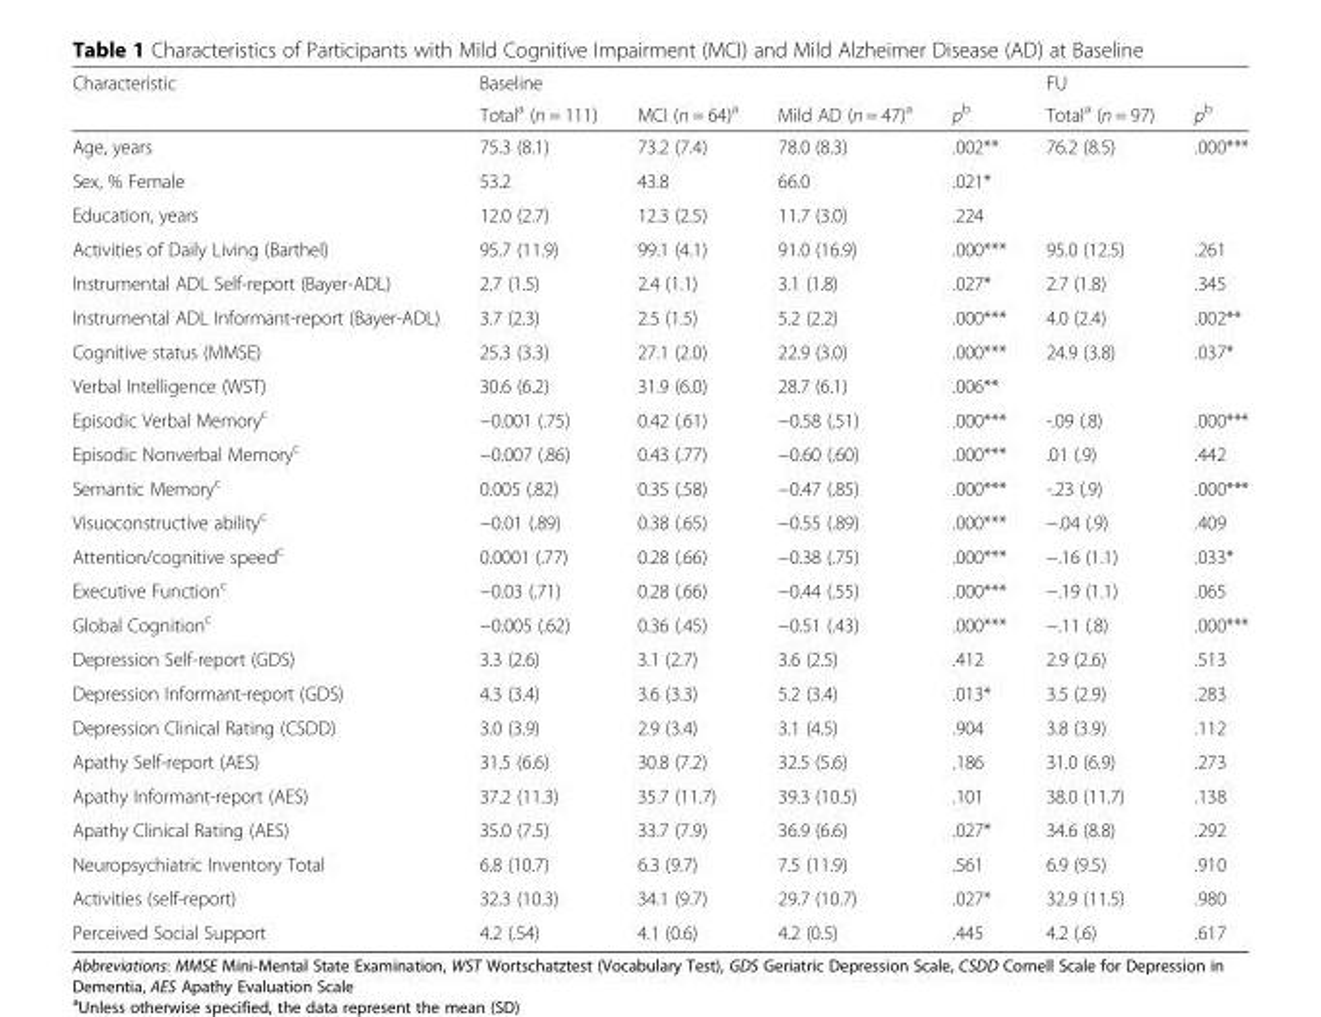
<table><thead><tr><td rowspan="2">Characteristic</td><td rowspan="2">Baseline Total<sup>a</sup> (n = 111)</td><td rowspan="2">MCI (n = 64)<sup>a</sup></td><td rowspan="2">Mild AD (n = 47)<sup>a</sup></td><td rowspan="2">p<sup>b</sup></td><td rowspan="2">FU Total<sup>a</sup> (n = 97)</td><td rowspan="2">p<sup>b</sup></td></tr><tr></tr></thead><tbody><tr><td>Age, years</td><td>75.3 (8.1)</td><td>73.2 (7.4)</td><td>78.0 (8.3)</td><td>.002**</td><td>76.2 (8.5)</td><td>.000***</td></tr><tr><td>Sex, % Female</td><td>53.2</td><td>43.8</td><td>66.0</td><td>.021*</td><td></td><td></td></tr><tr><td>Education, years</td><td>12.0 (2.7)</td><td>12.3 (2.5)</td><td>11.7 (3.0)</td><td>.224</td><td></td><td></td></tr><tr><td>Activities of Daily Living (Barthel)</td><td>95.7 (11.9)</td><td>99.1 (4.1)</td><td>91.0 (16.9)</td><td>.000***</td><td>95.0 (12.5)</td><td>.261</td></tr><tr><td>Instrumental ADL Self-report (Bayer-ADL)</td><td>2.7 (1.5)</td><td>2.4 (1.1)</td><td>3.1 (1.8)</td><td>.027*</td><td>2.7 (1.8)</td><td>.345</td></tr><tr><td>Instrumental ADL Informant-report (Bayer-ADL)</td><td>3.7 (2.3)</td><td>2.5 (1.5)</td><td>5.2 (2.2)</td><td>.000***</td><td>4.0 (2.4)</td><td>.002**</td></tr><tr><td>Cognitive status (MMSE)</td><td>25.3 (3.3)</td><td>27.1 (2.0)</td><td>22.9 (3.0)</td><td>.000***</td><td>24.9 (3.8)</td><td>.037*</td></tr><tr><td>Verbal Intelligence (WST)</td><td>30.6 (6.2)</td><td>31.9 (6.0)</td><td>28.7 (6.1)</td><td>.006**</td><td></td><td></td></tr><tr><td>Episodic Verbal Memory<sup>c</sup></td><td>−0.001 (.75)</td><td>0.42 (.61)</td><td>−0.58 (.51)</td><td>.000***</td><td>-.09 (.8)</td><td>.000***</td></tr><tr><td>Episodic Nonverbal Memory<sup>c</sup></td><td>−0.007 (.86)</td><td>0.43 (.77)</td><td>−0.60 (.60)</td><td>.000***</td><td>.01 (.9)</td><td>.442</td></tr><tr><td>Semantic Memory<sup>c</sup></td><td>0.005 (.82)</td><td>0.35 (.58)</td><td>−0.47 (.85)</td><td>.000***</td><td>-.23 (.9)</td><td>.000***</td></tr><tr><td>Visuoconstructive ability<sup>c</sup></td><td>−0.01 (.89)</td><td>0.38 (.65)</td><td>−0.55 (.89)</td><td>.000***</td><td>−.04 (.9)</td><td>.409</td></tr><tr><td>Attention/cognitive speed<sup>c</sup></td><td>0.0001 (.77)</td><td>0.28 (.66)</td><td>−0.38 (.75)</td><td>.000***</td><td>−.16 (1.1)</td><td>.033*</td></tr><tr><td>Executive Function<sup>c</sup></td><td>−0.03 (.71)</td><td>0.28 (.66)</td><td>−0.44 (.55)</td><td>.000***</td><td>−.19 (1.1)</td><td>.065</td></tr><tr><td>Global Cognition<sup>c</sup></td><td>−0.005 (.62)</td><td>0.36 (.45)</td><td>−0.51 (.43)</td><td>.000***</td><td>−.11 (.8)</td><td>.000***</td></tr><tr><td>Depression Self-report (GDS)</td><td>3.3 (2.6)</td><td>3.1 (2.7)</td><td>3.6 (2.5)</td><td>.412</td><td>2.9 (2.6)</td><td>.513</td></tr><tr><td>Depression Informant-report (GDS)</td><td>4.3 (3.4)</td><td>3.6 (3.3)</td><td>5.2 (3.4)</td><td>.013*</td><td>3.5 (2.9)</td><td>.283</td></tr><tr><td>Depression Clinical Rating (CSDD)</td><td>3.0 (3.9)</td><td>2.9 (3.4)</td><td>3.1 (4.5)</td><td>.904</td><td>3.8 (3.9)</td><td>.112</td></tr><tr><td>Apathy Self-report (AES)</td><td>31.5 (6.6)</td><td>30.8 (7.2)</td><td>32.5 (5.6)</td><td>.186</td><td>31.0 (6.9)</td><td>.273</td></tr><tr><td>Apathy Informant-report (AES)</td><td>37.2 (11.3)</td><td>35.7 (11.7)</td><td>39.3 (10.5)</td><td>.101</td><td>38.0 (11.7)</td><td>.138</td></tr><tr><td>Apathy Clinical Rating (AES)</td><td>35.0 (7.5)</td><td>33.7 (7.9)</td><td>36.9 (6.6)</td><td>.027*</td><td>34.6 (8.8)</td><td>.292</td></tr><tr><td>Neuropsychiatric Inventory Total</td><td>6.8 (10.7)</td><td>6.3 (9.7)</td><td>7.5 (11.9)</td><td>.561</td><td>6.9 (9.5)</td><td>.910</td></tr><tr><td>Activities (self-report)</td><td>32.3 (10.3)</td><td>34.1 (9.7)</td><td>29.7 (10.7)</td><td>.027*</td><td>32.9 (11.5)</td><td>.980</td></tr><tr><td>Perceived Social Support</td><td>4.2 (.54)</td><td>4.1 (0.6)</td><td>4.2 (0.5)</td><td>.445</td><td>4.2 (.6)</td><td>.617</td></tr></tbody></table>